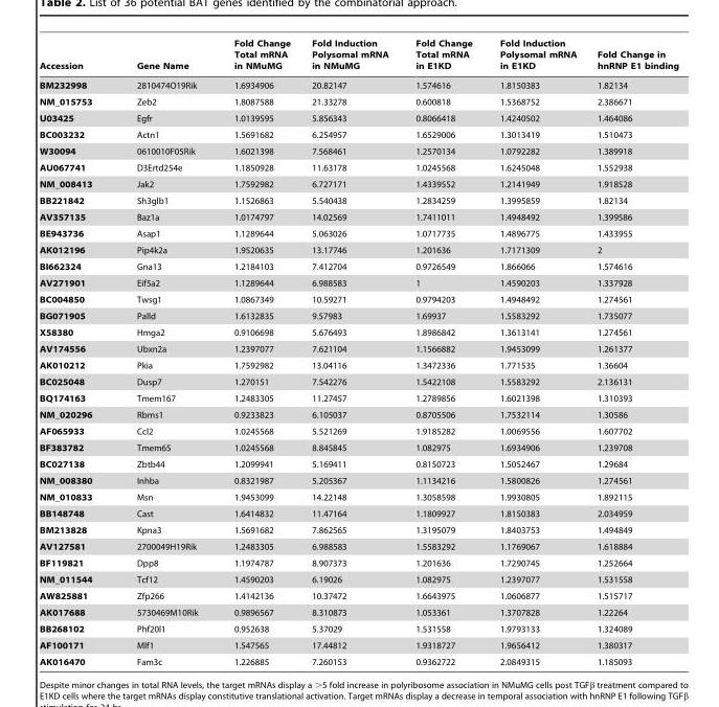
<table><thead><tr><td>Accession</td><td>Gene Name</td><td>Fold Change Total mRNA in NMuMG</td><td>Fold Induction Polysomal mRNA in NMuMG</td><td>Fold Change Total mRNA in E1KD</td><td>Fold Induction Polysomal mRNA in E1KD</td><td>Fold Change in hnRNP E1 binding</td></tr></thead><tbody><tr><td>BM232998</td><td>2810474O19Rik</td><td>1.6934906</td><td>20.82147</td><td>1.574616</td><td>1.8150383</td><td>1.82134</td></tr><tr><td>NM_015753</td><td>Zeb2</td><td>1.8087588</td><td>21.33278</td><td>0.600818</td><td>1.5368752</td><td>2.386671</td></tr><tr><td>U03425</td><td>Egfr</td><td>1.0139595</td><td>5.856343</td><td>0.8066418</td><td>1.4240502</td><td>1.464086</td></tr><tr><td>BC003232</td><td>Actn1</td><td>1.5691682</td><td>6.254957</td><td>1.6529006</td><td>1.3013419</td><td>1.510473</td></tr><tr><td>W30094</td><td>0610010F05Rik</td><td>1.6021398</td><td>7.568461</td><td>1.2570134</td><td>1.0792282</td><td>1.389918</td></tr><tr><td>AU067741</td><td>D3Ertd254e</td><td>1.1850928</td><td>11.63178</td><td>1.0245568</td><td>1.6245048</td><td>1.552938</td></tr><tr><td>NM_008413</td><td>Jak2</td><td>1.7592982</td><td>6.727171</td><td>1.4339552</td><td>1.2141949</td><td>1.918528</td></tr><tr><td>BB221842</td><td>Sh3glb1</td><td>1.1526863</td><td>5.540438</td><td>1.2834259</td><td>1.3995859</td><td>1.82134</td></tr><tr><td>AV357135</td><td>Baz1a</td><td>1.0174797</td><td>14.02569</td><td>1.7411011</td><td>1.4948492</td><td>1.399586</td></tr><tr><td>BE943736</td><td>Asap1</td><td>1.1289644</td><td>5.063026</td><td>1.0717735</td><td>1.4896775</td><td>1.433955</td></tr><tr><td>AK012196</td><td>Pip4k2a</td><td>1.9520635</td><td>13.17746</td><td>1.201636</td><td>1.7171309</td><td>2</td></tr><tr><td>BI662324</td><td>Gna13</td><td>1.2184103</td><td>7.412704</td><td>0.9726549</td><td>1.866066</td><td>1.574616</td></tr><tr><td>AV271901</td><td>Eif5a2</td><td>1.1289644</td><td>6.988583</td><td>1</td><td>1.4590203</td><td>1.337928</td></tr><tr><td>BC004850</td><td>Twsg1</td><td>1.0867349</td><td>10.59271</td><td>0.9794203</td><td>1.4948492</td><td>1.274561</td></tr><tr><td>BG071905</td><td>Palld</td><td>1.6132835</td><td>9.57983</td><td>1.69937</td><td>1.5583292</td><td>1.735077</td></tr><tr><td>X58380</td><td>Hmga2</td><td>0.9106698</td><td>5.676493</td><td>1.8986842</td><td>1.3613141</td><td>1.274561</td></tr><tr><td>AV174556</td><td>Ubxn2a</td><td>1.2397077</td><td>7.621104</td><td>1.1566882</td><td>1.9453099</td><td>1.261377</td></tr><tr><td>AK010212</td><td>Pkia</td><td>1.7592982</td><td>13.04116</td><td>1.3472336</td><td>1.771535</td><td>1.36604</td></tr><tr><td>BC025048</td><td>Dusp7</td><td>1.270151</td><td>7.542276</td><td>1.5422108</td><td>1.5583292</td><td>2.136131</td></tr><tr><td>BQ174163</td><td>Tmem167</td><td>1.2483305</td><td>11.27457</td><td>1.2789856</td><td>1.6021398</td><td>1.310393</td></tr><tr><td>NM_020296</td><td>Rbms1</td><td>0.9233823</td><td>6.105037</td><td>0.8705506</td><td>1.7532114</td><td>1.30586</td></tr><tr><td>AF065933</td><td>Ccl2</td><td>1.0245568</td><td>5.521269</td><td>1.9185282</td><td>1.0069556</td><td>1.607702</td></tr><tr><td>BF383782</td><td>Tmem65</td><td>1.0245568</td><td>8.845845</td><td>1.082975</td><td>1.6934906</td><td>1.239708</td></tr><tr><td>BC027138</td><td>Zbtb44</td><td>1.2099941</td><td>5.169411</td><td>0.8150723</td><td>1.5052467</td><td>1.29684</td></tr><tr><td>NM_008380</td><td>Inhba</td><td>0.8321987</td><td>5.205367</td><td>1.1134216</td><td>1.5800826</td><td>1.274561</td></tr><tr><td>NM_010833</td><td>Msn</td><td>1.9453099</td><td>14.22148</td><td>1.3058598</td><td>1.9930805</td><td>1.892115</td></tr><tr><td>BB148748</td><td>Cast</td><td>1.6414832</td><td>11.47164</td><td>1.1809927</td><td>1.8150383</td><td>2.034959</td></tr><tr><td>BM213828</td><td>Kpna3</td><td>1.5691682</td><td>7.862565</td><td>1.3195079</td><td>1.8403753</td><td>1.494849</td></tr><tr><td>AV127581</td><td>2700049H19Rik</td><td>1.2483305</td><td>6.988583</td><td>1.5583292</td><td>1.1769067</td><td>1.618884</td></tr><tr><td>BF119821</td><td>Dpp8</td><td>1.1974787</td><td>8.907373</td><td>1.201636</td><td>1.7290745</td><td>1.252664</td></tr><tr><td>NM_011544</td><td>Tcf12</td><td>1.4590203</td><td>6.19026</td><td>1.082975</td><td>1.2397077</td><td>1.531558</td></tr><tr><td>AW825881</td><td>Zfp266</td><td>1.4142136</td><td>10.37472</td><td>1.6643975</td><td>1.0606877</td><td>1.515717</td></tr><tr><td>AK017688</td><td>5730469M10Rik</td><td>0.9896567</td><td>8.310873</td><td>1.053361</td><td>1.3707828</td><td>1.22264</td></tr><tr><td>BB268102</td><td>Phf20l1</td><td>0.952638</td><td>5.37029</td><td>1.531558</td><td>1.9793133</td><td>1.324089</td></tr><tr><td>AF100171</td><td>Mlf1</td><td>1.547565</td><td>17.44812</td><td>1.9318727</td><td>1.9656412</td><td>1.380317</td></tr><tr><td>AK016470</td><td>Fam3c</td><td>1.226885</td><td>7.260153</td><td>0.9362722</td><td>2.0849315</td><td>1.185093</td></tr></tbody></table>